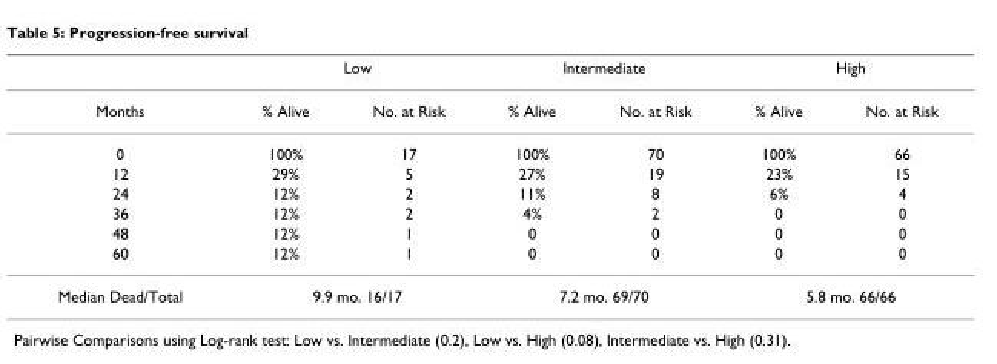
<table><thead><tr><td rowspan="2">Months</td><td colspan="2">Low</td><td colspan="2">Intermediate</td><td colspan="2">High</td></tr><tr><td>% Alive</td><td>No. at Risk</td><td>% Alive</td><td>No. at Risk</td><td>% Alive</td><td>No. at Risk</td></tr></thead><tbody><tr><td>0</td><td>100%</td><td>17</td><td>100%</td><td>70</td><td>100%</td><td>66</td></tr><tr><td>12</td><td>29%</td><td>5</td><td>27%</td><td>19</td><td>23%</td><td>15</td></tr><tr><td>24</td><td>12%</td><td>2</td><td>11%</td><td>8</td><td>6%</td><td>4</td></tr><tr><td>36</td><td>12%</td><td>2</td><td>4%</td><td>2</td><td>0</td><td>0</td></tr><tr><td>48</td><td>12%</td><td>1</td><td>0</td><td>0</td><td>0</td><td>0</td></tr><tr><td>60</td><td>12%</td><td>1</td><td>0</td><td>0</td><td>0</td><td>0</td></tr><tr><td>Median Dead/Total</td><td colspan="2">9.9 mo. 16/17</td><td colspan="2">7.2 mo. 69/70</td><td colspan="2">5.8 mo. 66/66</td></tr></tbody></table>